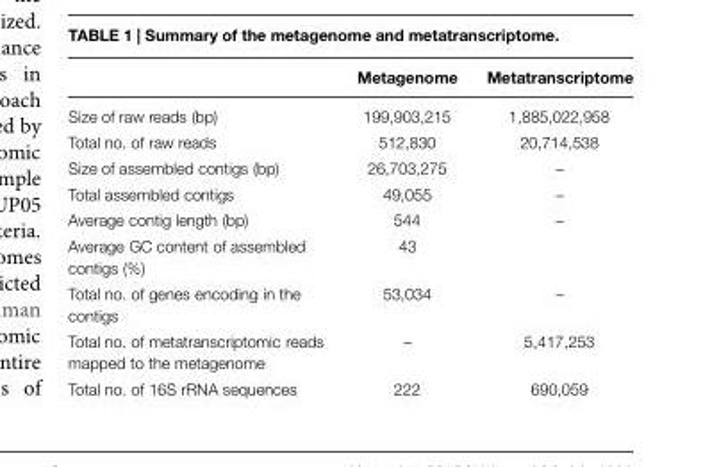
<table><thead><tr><td></td><td>Metagenome</td><td>Metatranscriptome</td></tr></thead><tbody><tr><td>Size of raw reads (bp)</td><td>199,903,215</td><td>1,885,022,958</td></tr><tr><td>Total no. of raw reads</td><td>512,830</td><td>20,714,538</td></tr><tr><td>Size of assembled contigs (bp)</td><td>26,703,275</td><td>–</td></tr><tr><td>Total assembled contigs</td><td>49,055</td><td>–</td></tr><tr><td>Average contig length (bp)</td><td>544</td><td>–</td></tr><tr><td>Average GC content of assembled contigs (%)</td><td>43</td><td></td></tr><tr><td>Total no. of genes encoding in the contigs</td><td>53,034</td><td>–</td></tr><tr><td>Total no. of metatranscriptomic reads mapped to the metagenome</td><td>–</td><td>5,417,253</td></tr><tr><td>Total no. of 16S rRNA sequences</td><td>222</td><td>690,059</td></tr></tbody></table>